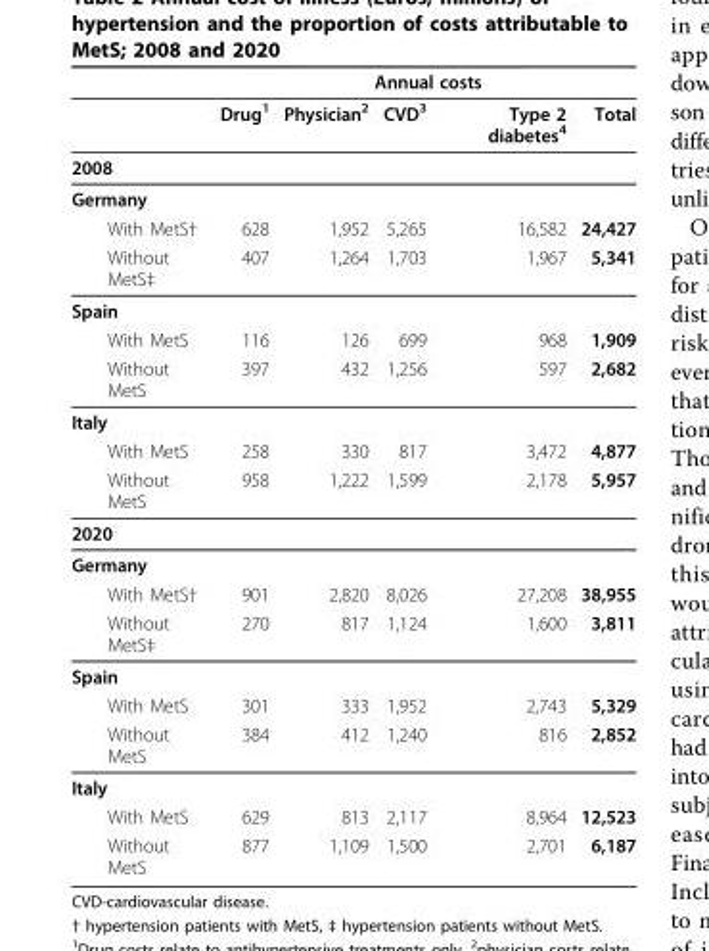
<table><thead><tr><td rowspan="2"></td><td colspan="5">Annual costs</td></tr><tr><td>Drug<sup>1</sup></td><td>Physician<sup>2</sup></td><td>CVD<sup>3</sup></td><td>Type 2 diabetes<sup>4</sup></td><td>Total</td></tr></thead><tbody><tr><td colspan="6">2008</td></tr><tr><td colspan="6">Germany</td></tr><tr><td>With MetS†</td><td>628</td><td>1,952</td><td>5,265</td><td>16,582</td><td>24,427</td></tr><tr><td>Without MetS‡</td><td>407</td><td>1,264</td><td>1,703</td><td>1,967</td><td>5,341</td></tr><tr><td colspan="6">Spain</td></tr><tr><td>With MetS</td><td>116</td><td>126</td><td>699</td><td>968</td><td>1,909</td></tr><tr><td>Without MetS</td><td>397</td><td>432</td><td>1,256</td><td>597</td><td>2,682</td></tr><tr><td colspan="6">Italy</td></tr><tr><td>With MetS</td><td>258</td><td>330</td><td>817</td><td>3,472</td><td>4,877</td></tr><tr><td>Without MetS</td><td>958</td><td>1,222</td><td>1,599</td><td>2,178</td><td>5,957</td></tr><tr><td colspan="6">2020</td></tr><tr><td colspan="6">Germany</td></tr><tr><td>With MetS†</td><td>901</td><td>2,820</td><td>8,026</td><td>27,208</td><td>38,955</td></tr><tr><td>Without MetS‡</td><td>270</td><td>817</td><td>1,124</td><td>1,600</td><td>3,811</td></tr><tr><td colspan="6">Spain</td></tr><tr><td>With MetS</td><td>301</td><td>333</td><td>1,952</td><td>2,743</td><td>5,329</td></tr><tr><td>Without MetS</td><td>384</td><td>412</td><td>1,240</td><td>816</td><td>2,852</td></tr><tr><td colspan="6">Italy</td></tr><tr><td>With MetS</td><td>629</td><td>813</td><td>2,117</td><td>8,964</td><td>12,523</td></tr><tr><td>Without MetS</td><td>877</td><td>1,109</td><td>1,500</td><td>2,701</td><td>6,187</td></tr></tbody></table>